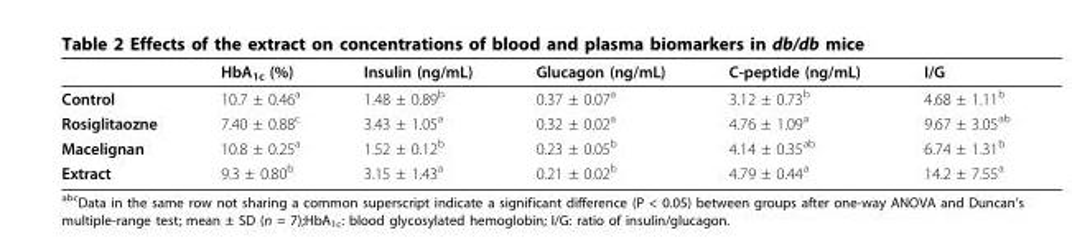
<table><thead><tr><td></td><td>HbA<sub>1c</sub> (%)</td><td>Insulin (ng/mL)</td><td>Glucagon (ng/mL)</td><td>C-peptide (ng/mL)</td><td>I/G</td></tr></thead><tbody><tr><td>Control</td><td>10.7 ± 0.46<sup>a</sup></td><td>1.48 ± 0.89<sup>b</sup></td><td>0.37 ± 0.07<sup>a</sup></td><td>3.12 ± 0.73<sup>b</sup></td><td>4.68 ± 1.11<sup>b</sup></td></tr><tr><td>Rosiglitaozne</td><td>7.40 ± 0.88<sup>c</sup></td><td>3.43 ± 1.05<sup>a</sup></td><td>0.32 ± 0.02<sup>a</sup></td><td>4.76 ± 1.09<sup>a</sup></td><td>9.67 ± 3.05<sup>ab</sup></td></tr><tr><td>Macelignan</td><td>10.8 ± 0.25<sup>a</sup></td><td>1.52 ± 0.12<sup>b</sup></td><td>0.23 ± 0.05<sup>b</sup></td><td>4.14 ± 0.35<sup>ab</sup></td><td>6.74 ± 1.31<sup>b</sup></td></tr><tr><td>Extract</td><td>9.3 ± 0.80<sup>b</sup></td><td>3.15 ± 1.43<sup>a</sup></td><td>0.21 ± 0.02<sup>b</sup></td><td>4.79 ± 0.44<sup>a</sup></td><td>14.2 ± 7.55<sup>a</sup></td></tr></tbody></table>